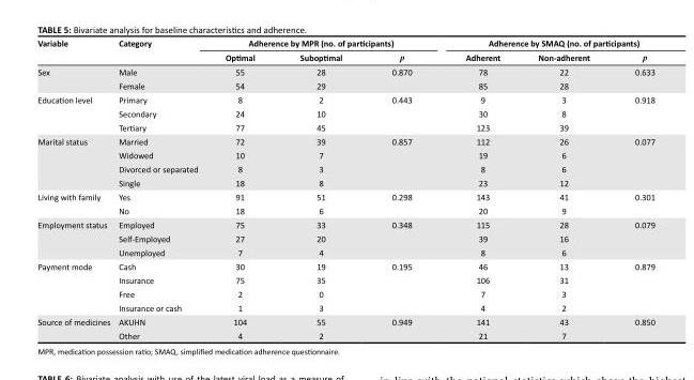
<table><thead><tr><td rowspan="2">Variable</td><td rowspan="2">Category</td><td colspan="3">Adherence by MPR (no. of participants)</td><td colspan="3">Adherence by SMAQ (no. of participants)</td></tr><tr><td>Optimal</td><td>Suboptimal</td><td>p</td><td>Adherent</td><td>Non-adherent</td><td>p</td></tr></thead><tbody><tr><td rowspan="2">Sex</td><td>Male</td><td>55</td><td>28</td><td rowspan="2">0.870</td><td>78</td><td>22</td><td rowspan="2">0.633</td></tr><tr><td>Female</td><td>54</td><td>29</td><td>85</td><td>28</td></tr><tr><td rowspan="3">Education level</td><td>Primary</td><td>8</td><td>2</td><td rowspan="3">0.443</td><td>9</td><td>3</td><td rowspan="3">0.918</td></tr><tr><td>Secondary</td><td>24</td><td>10</td><td>30</td><td>8</td></tr><tr><td>Tertiary</td><td>77</td><td>45</td><td>123</td><td>39</td></tr><tr><td rowspan="4">Marital status</td><td>Married</td><td>72</td><td>39</td><td rowspan="4">0.857</td><td>112</td><td>26</td><td rowspan="4">0.077</td></tr><tr><td>Widowed</td><td>10</td><td>7</td><td>19</td><td>6</td></tr><tr><td>Divorced or separated</td><td>8</td><td>3</td><td>8</td><td>6</td></tr><tr><td>Single</td><td>18</td><td>8</td><td>23</td><td>12</td></tr><tr><td rowspan="2">Living with family</td><td>Yes</td><td>91</td><td>51</td><td rowspan="2">0.298</td><td>143</td><td>41</td><td rowspan="2">0.301</td></tr><tr><td>No</td><td>18</td><td>6</td><td>20</td><td>9</td></tr><tr><td rowspan="3">Employment status</td><td>Employed</td><td>75</td><td>33</td><td rowspan="3">0.348</td><td>115</td><td>28</td><td rowspan="3">0.079</td></tr><tr><td>Self-Employed</td><td>27</td><td>20</td><td>39</td><td>16</td></tr><tr><td>Unemployed</td><td>7</td><td>4</td><td>8</td><td>6</td></tr><tr><td rowspan="4">Payment mode</td><td>Cash</td><td>30</td><td>19</td><td rowspan="4">0.195</td><td>46</td><td>13</td><td rowspan="4">0.879</td></tr><tr><td>Insurance</td><td>75</td><td>35</td><td>106</td><td>31</td></tr><tr><td>Free</td><td>2</td><td>0</td><td>7</td><td>3</td></tr><tr><td>Insurance or cash</td><td>1</td><td>3</td><td>4</td><td>2</td></tr><tr><td rowspan="2">Source of medicines</td><td>AKUHN</td><td>104</td><td>55</td><td rowspan="2">0.949</td><td>141</td><td>43</td><td rowspan="2">0.850</td></tr><tr><td>Other</td><td>4</td><td>2</td><td>21</td><td>7</td></tr></tbody></table>